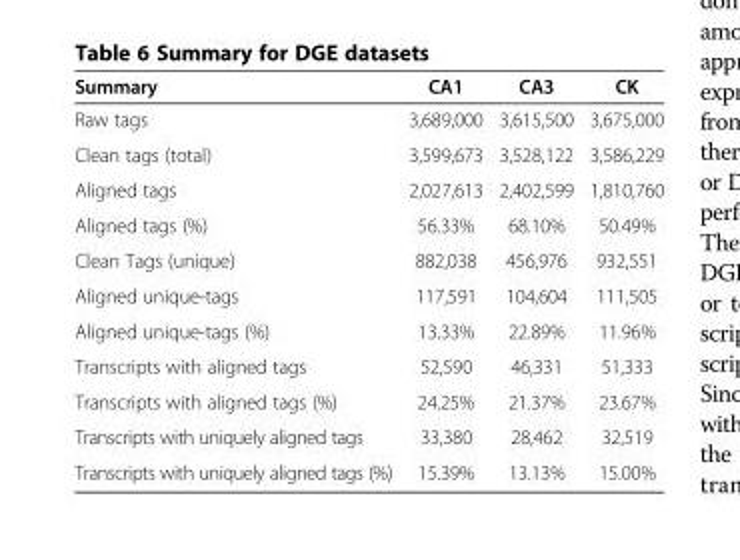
<table><thead><tr><td>Summary</td><td>CA1</td><td>CA3</td><td>CK</td></tr></thead><tbody><tr><td>Raw tags</td><td>3,689,000</td><td>3,615,500</td><td>3,675,000</td></tr><tr><td>Clean tags (total)</td><td>3,599,673</td><td>3,528,122</td><td>3,586,229</td></tr><tr><td>Aligned tags</td><td>2,027,613</td><td>2,402,599</td><td>1,810,760</td></tr><tr><td>Aligned tags (%)</td><td>56.33%</td><td>68.10%</td><td>50.49%</td></tr><tr><td>Clean Tags (unique)</td><td>882,038</td><td>456,976</td><td>932,551</td></tr><tr><td>Aligned unique-tags</td><td>117,591</td><td>104,604</td><td>111,505</td></tr><tr><td>Aligned unique-tags (%)</td><td>13.33%</td><td>22.89%</td><td>11.96%</td></tr><tr><td>Transcripts with aligned tags</td><td>52,590</td><td>46,331</td><td>51,333</td></tr><tr><td>Transcripts with aligned tags (%)</td><td>24.25%</td><td>21.37%</td><td>23.67%</td></tr><tr><td>Transcripts with uniquely aligned tags</td><td>33,380</td><td>28,462</td><td>32,519</td></tr><tr><td>Transcripts with uniquely aligned tags (%)</td><td>15.39%</td><td>13.13%</td><td>15.00%</td></tr></tbody></table>